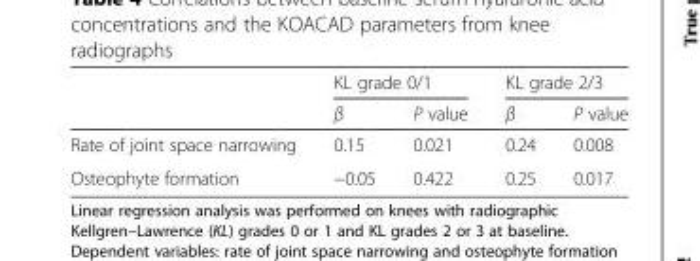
<table><thead><tr><td rowspan="2"></td><td colspan="2">KL grade 0/1</td><td colspan="2">KL grade 2/3</td></tr><tr><td>β</td><td>P value</td><td>β</td><td>P value</td></tr></thead><tbody><tr><td>Rate of joint space narrowing</td><td>0.15</td><td>0.021</td><td>0.24</td><td>0.008</td></tr><tr><td>Osteophyte formation</td><td>−0.05</td><td>0.422</td><td>0.25</td><td>0.017</td></tr></tbody></table>